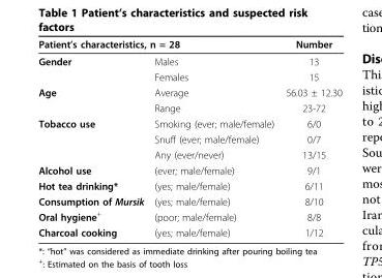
<table><thead><tr><td colspan="2">Patient’s characteristics, n = 28</td><td rowspan="2">Number 13</td></tr><tr><td>Gender</td><td>Males</td></tr></thead><tbody><tr><td></td><td>Females</td><td>15</td></tr><tr><td rowspan="2">Age</td><td>Average</td><td>56.03 ± 12.30</td></tr><tr><td>Range</td><td>23-72</td></tr><tr><td rowspan="3">Tobacco use</td><td>Smoking (ever; male/female)</td><td>6/0</td></tr><tr><td>Snuff (ever; male/female)</td><td>0/7</td></tr><tr><td>Any (ever/never)</td><td>13/15</td></tr><tr><td>Alcohol use</td><td>(ever; male/female)</td><td>9/1</td></tr><tr><td>Hot tea drinking*</td><td>(yes; male/female)</td><td>6/11</td></tr><tr><td>Consumption of Mursik</td><td>(yes; male/female)</td><td>8/10</td></tr><tr><td>Oral hygiene<sup>+</sup></td><td>(poor; male/female)</td><td>8/8</td></tr><tr><td>Charcoal cooking</td><td>(yes; male/female)</td><td>1/12</td></tr></tbody></table>